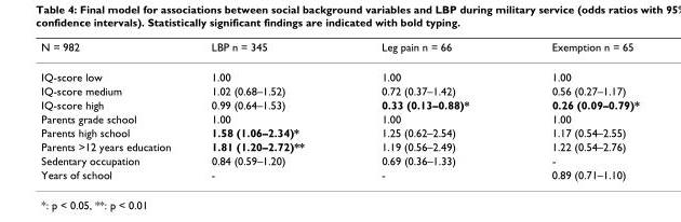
<table><thead><tr><td>N = 982</td><td>LBP n = 345</td><td>Leg pain n = 66</td><td>Exemption n = 65</td></tr></thead><tbody><tr><td>IQ-score low</td><td>1.00</td><td>1.00</td><td>1.00</td></tr><tr><td>IQ-score medium</td><td>1.02 (0.68–1.52)</td><td>0.72 (0.37–1.42)</td><td>0.56 (0.27–1.17)</td></tr><tr><td>IQ-score high</td><td>0.99 (0.64–1.53)</td><td>0.33 (0.13–0.88)*</td><td>0.26 (0.09–0.79)*</td></tr><tr><td>Parents grade school</td><td>1.00</td><td>1.00</td><td>1.00</td></tr><tr><td>Parents high school</td><td>1.58 (1.06–2.34)*</td><td>1.25 (0.62–2.54)</td><td>1.17 (0.54–2.55)</td></tr><tr><td>Parents &gt;12 years education</td><td>1.81 (1.20–2.72)**</td><td>1.19 (0.56–2.49)</td><td>1.22 (0.54–2.76)</td></tr><tr><td>Sedentary occupation</td><td>0.84 (0.59–1.20)</td><td>0.69 (0.36–1.33)</td><td>-</td></tr><tr><td>Years of school</td><td>-</td><td>-</td><td>0.89 (0.71–1.10)</td></tr></tbody></table>